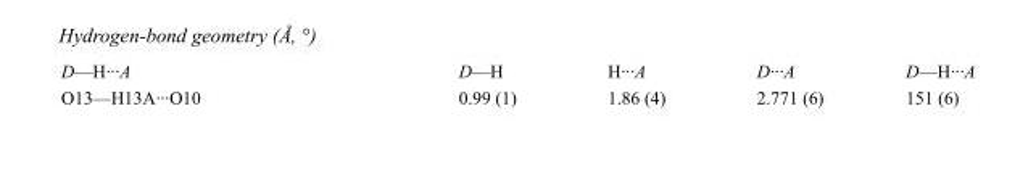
<table><tbody><tr><td>D—H···A</td><td>D—H</td><td>H···A</td><td>D···A</td><td>D—H···A</td></tr><tr><td>O13—H13A···O10</td><td>0.99 (1)</td><td>1.86 (4)</td><td>2.771 (6)</td><td>151 (6)</td></tr></tbody></table>